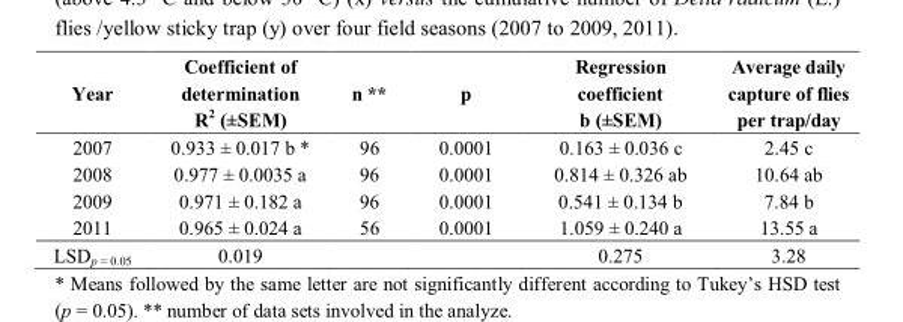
<table><thead><tr><td>Year</td><td>Coefficient of determination R<sup>2</sup> (±SEM)</td><td>n **</td><td>p</td><td>Regression coefficient b (±SEM)</td><td>Average daily capture of flies per trap/day</td></tr></thead><tbody><tr><td>2007</td><td>0.933 ± 0.017 b *</td><td>96</td><td>0.0001</td><td>0.163 ± 0.036 c</td><td>2.45 c</td></tr><tr><td>2008</td><td>0.977 ± 0.0035 a</td><td>96</td><td>0.0001</td><td>0.814 ± 0.326 ab</td><td>10.64 ab</td></tr><tr><td>2009</td><td>0.971 ± 0.182 a</td><td>96</td><td>0.0001</td><td>0.541 ± 0.134 b</td><td>7.84 b</td></tr><tr><td>2011</td><td>0.965 ± 0.024 a</td><td>56</td><td>0.0001</td><td>1.059 ± 0.240 a</td><td>13.55 a</td></tr><tr><td>LSD<sub>p = 0.05</sub></td><td>0.019</td><td></td><td></td><td>0.275</td><td>3.28</td></tr></tbody></table>